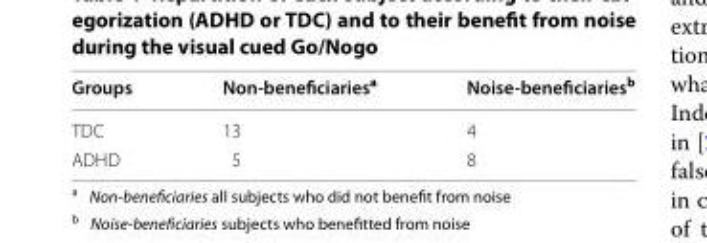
<table><thead><tr><td>Groups</td><td>Non‑beneficiaries<sup>a</sup></td><td>Noise‑beneficiaries<sup>b</sup></td></tr></thead><tbody><tr><td>TDC</td><td>13</td><td>4</td></tr><tr><td>ADHD</td><td>5</td><td>8</td></tr></tbody></table>